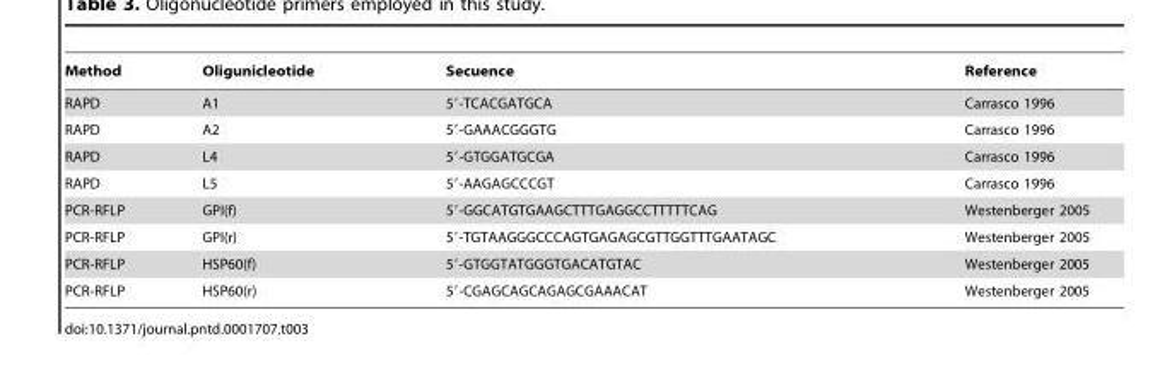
<table><thead><tr><td>Method</td><td>Oligunicleotide</td><td>Secuence</td><td>Reference</td></tr></thead><tbody><tr><td>RAPD</td><td>A1</td><td>5′-TCACGATGCA</td><td>Carrasco 1996</td></tr><tr><td>RAPD</td><td>A2</td><td>5′-GAAACGGGTG</td><td>Carrasco 1996</td></tr><tr><td>RAPD</td><td>L4</td><td>5′-GTGGATGCGA</td><td>Carrasco 1996</td></tr><tr><td>RAPD</td><td>L5</td><td>5′-AAGAGCCCGT</td><td>Carrasco 1996</td></tr><tr><td>PCR-RFLP</td><td>GPI(f)</td><td>5′-GGCATGTGAAGCTTTGAGGCCTTTTTCAG</td><td>Westenberger 2005</td></tr><tr><td>PCR-RFLP</td><td>GPI(r)</td><td>5′-TGTAAGGGCCCAGTGAGAGCGTTGGTTTGAATAGC</td><td>Westenberger 2005</td></tr><tr><td>PCR-RFLP</td><td>HSP60(f)</td><td>5′-GTGGTATGGGTGACATGTAC</td><td>Westenberger 2005</td></tr><tr><td>PCR-RFLP</td><td>HSP60(r)</td><td>5′-CGAGCAGCAGAGCGAAACAT</td><td>Westenberger 2005</td></tr></tbody></table>